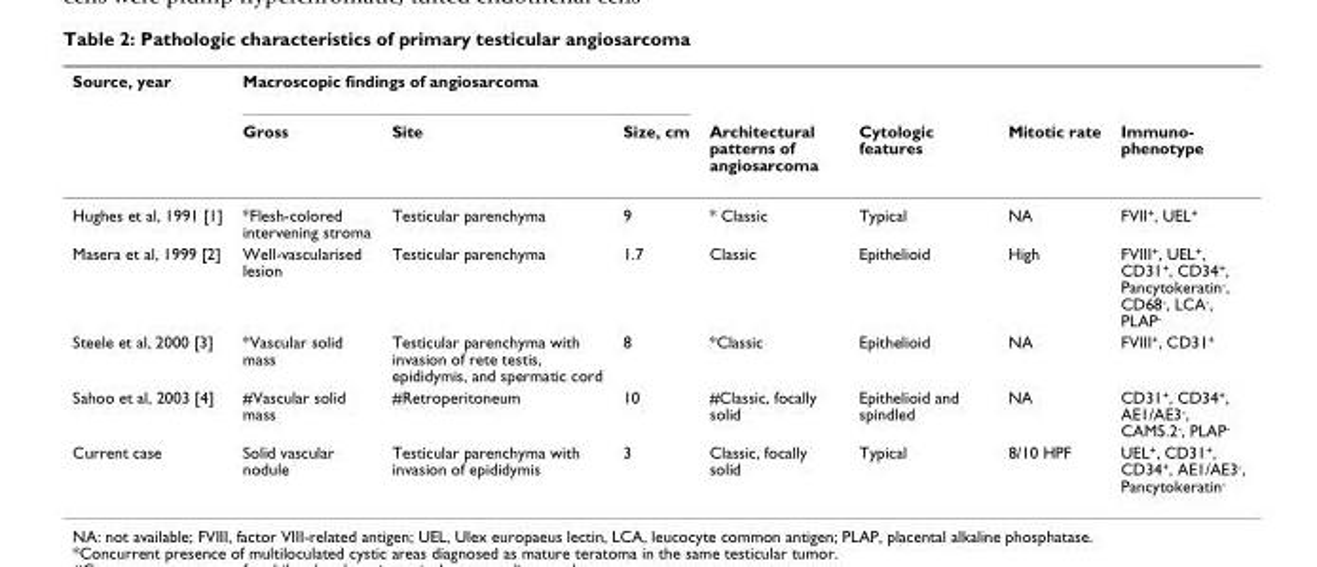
<table><thead><tr><td rowspan="2">Source, year</td><td colspan="3">Macroscopic findings of angiosarcoma</td><td rowspan="2">Architectural patterns of angiosarcoma</td><td rowspan="2">Cytologic features</td><td rowspan="2">Mitotic rate</td><td rowspan="2">Immuno- phenotype</td></tr><tr><td>Gross</td><td>Site</td><td>Size, cm</td></tr></thead><tbody><tr><td>Hughes et al, 1991 [1]</td><td>*Flesh-colored intervening stroma</td><td>Testicular parenchyma</td><td>9</td><td>* Classic</td><td>Typical</td><td>NA</td><td>FVII<sup>+</sup>, UEL<sup>+</sup></td></tr><tr><td>Masera et al, 1999 [2]</td><td>Well-vascularised lesion</td><td>Testicular parenchyma</td><td>1.7</td><td>Classic</td><td>Epithelioid</td><td>High</td><td>FVIII<sup>+</sup>, UEL<sup>+</sup>, CD31<sup>+</sup>, CD34<sup>+</sup>, Pancytokeratin<sup>-</sup>, CD68<sup>-</sup>, LCA<sup>-</sup>, PLAP<sup>-</sup></td></tr><tr><td>Steele et al, 2000 [3]</td><td>*Vascular solid mass</td><td>Testicular parenchyma with invasion of rete testis, epididymis, and spermatic cord</td><td>8</td><td>*Classic</td><td>Epithelioid</td><td>NA</td><td>FVIII<sup>+</sup>, CD31<sup>+</sup></td></tr><tr><td>Sahoo et al, 2003 [4]</td><td>#Vascular solid mass</td><td>#Retroperitoneum</td><td>10</td><td>#Classic, focally solid</td><td>Epithelioid and spindled</td><td>NA</td><td>CD31<sup>+</sup>, CD34<sup>+</sup>, AE1/AE3<sup>-</sup>, CAM5.2<sup>-</sup>, PLAP<sup>-</sup></td></tr><tr><td>Current case</td><td>Solid vascular nodule</td><td>Testicular parenchyma with invasion of epididymis</td><td>3</td><td>Classic, focally solid</td><td>Typical</td><td>8/10 HPF</td><td>UEL<sup>+</sup>, CD31<sup>+</sup>, CD34<sup>+</sup>, AE1/AE3<sup>-</sup>, Pancytokeratin<sup>-</sup></td></tr></tbody></table>